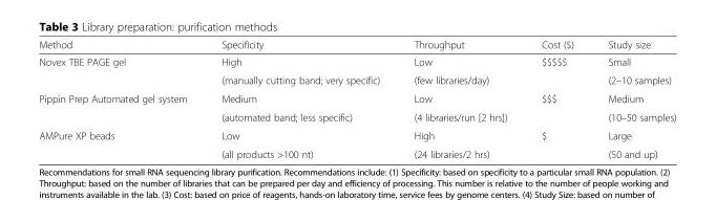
<table><thead><tr><td>Method</td><td>Specificity</td><td>Throughput</td><td>Cost ($)</td><td>Study size</td></tr></thead><tbody><tr><td rowspan="2">Novex TBE PAGE gel</td><td>High</td><td>Low</td><td>$$$$$</td><td>Small</td></tr><tr><td>(manually cutting band; very specific)</td><td>(few libraries/day)</td><td></td><td>(2–10 samples)</td></tr><tr><td rowspan="2">Pippin Prep Automated gel system</td><td>Medium</td><td>Low</td><td>$$$</td><td>Medium</td></tr><tr><td>(automated band; less specific)</td><td>(4 libraries/run [2 hrs])</td><td></td><td>(10–50 samples)</td></tr><tr><td rowspan="2">AMPure XP beads</td><td>Low</td><td>High</td><td>$</td><td>Large</td></tr><tr><td>(all products &gt;100 nt)</td><td>(24 libraries/2 hrs)</td><td></td><td>(50 and up)</td></tr></tbody></table>